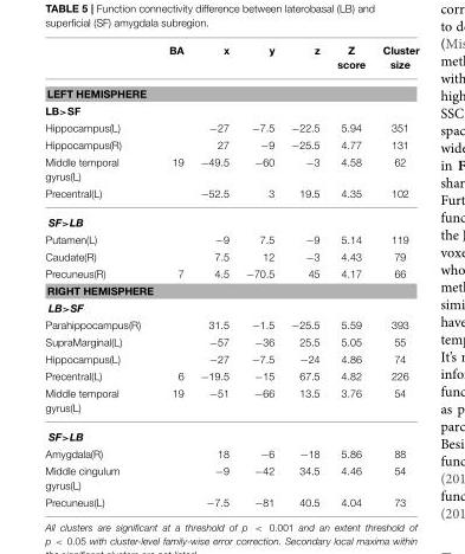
<table><thead><tr><td></td><td>BA</td><td>x</td><td>y</td><td>z</td><td>Z score</td><td>Cluster size</td></tr></thead><tbody><tr><td colspan="7">LEFT HEMISPHERE</td></tr><tr><td colspan="7">LB&gt;SF</td></tr><tr><td>Hippocampus(L)</td><td></td><td>−27</td><td>−7.5</td><td>−22.5</td><td>5.94</td><td>351</td></tr><tr><td>Hippocampus(R)</td><td></td><td>27</td><td>−9</td><td>−25.5</td><td>4.77</td><td>131</td></tr><tr><td>Middle temporal gyrus(L)</td><td>19</td><td>−49.5</td><td>−60</td><td>−3</td><td>4.58</td><td>62</td></tr><tr><td>Precentral(L)</td><td></td><td>−52.5</td><td>3</td><td>19.5</td><td>4.35</td><td>102</td></tr><tr><td colspan="7">SF&gt;LB</td></tr><tr><td>Putamen(L)</td><td></td><td>−9</td><td>7.5</td><td>−9</td><td>5.14</td><td>119</td></tr><tr><td>Caudate(R)</td><td></td><td>7.5</td><td>12</td><td>−3</td><td>4.43</td><td>79</td></tr><tr><td>Precuneus(R)</td><td>7</td><td>4.5</td><td>−70.5</td><td>45</td><td>4.17</td><td>66</td></tr><tr><td colspan="7">RIGHT HEMISPHERE</td></tr><tr><td colspan="7">LB&gt;SF</td></tr><tr><td>Parahippocampus(R)</td><td></td><td>31.5</td><td>−1.5</td><td>−25.5</td><td>5.59</td><td>393</td></tr><tr><td>SupraMarginal(L)</td><td></td><td>−57</td><td>−36</td><td>25.5</td><td>5.05</td><td>55</td></tr><tr><td>Hippocampus(L)</td><td></td><td>−27</td><td>−7.5</td><td>−24</td><td>4.86</td><td>74</td></tr><tr><td>Precentral(L)</td><td>6</td><td>−19.5</td><td>−15</td><td>67.5</td><td>4.82</td><td>226</td></tr><tr><td>Middle temporal gyrus(L)</td><td>19</td><td>−51</td><td>−66</td><td>13.5</td><td>3.76</td><td>54</td></tr><tr><td colspan="7">SF&gt;LB</td></tr><tr><td>Amygdala(R)</td><td></td><td>18</td><td>−6</td><td>−18</td><td>5.86</td><td>88</td></tr><tr><td>Middle cingulum gyrus(L)</td><td></td><td>−9</td><td>−42</td><td>34.5</td><td>4.46</td><td>54</td></tr><tr><td>Precuneus(L)</td><td></td><td>−7.5</td><td>−81</td><td>40.5</td><td>4.04</td><td>73</td></tr></tbody></table>